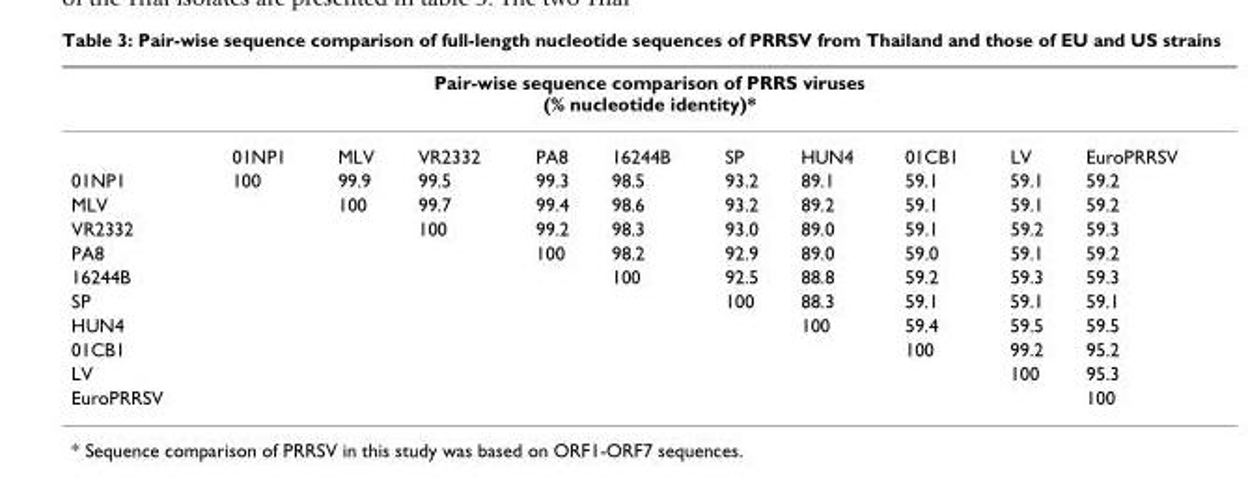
<table><thead><tr><td colspan="11">Pair-wise sequence comparison of PRRS viruses (% nucleotide identity)*</td></tr><tr><td></td><td>01NP1</td><td>MLV</td><td>VR2332</td><td>PA8</td><td>16244B</td><td>SP</td><td>HUN4</td><td>01CB1</td><td>LV</td><td>EuroPRRSV</td></tr></thead><tbody><tr><td>01NP1</td><td>100</td><td>99.9</td><td>99.5</td><td>99.3</td><td>98.5</td><td>93.2</td><td>89.1</td><td>59.1</td><td>59.1</td><td>59.2</td></tr><tr><td>MLV</td><td></td><td>100</td><td>99.7</td><td>99.4</td><td>98.6</td><td>93.2</td><td>89.2</td><td>59.1</td><td>59.1</td><td>59.2</td></tr><tr><td>VR2332</td><td></td><td></td><td>100</td><td>99.2</td><td>98.3</td><td>93.0</td><td>89.0</td><td>59.1</td><td>59.2</td><td>59.3</td></tr><tr><td>PA8</td><td></td><td></td><td></td><td>100</td><td>98.2</td><td>92.9</td><td>89.0</td><td>59.0</td><td>59.1</td><td>59.2</td></tr><tr><td>16244B</td><td></td><td></td><td></td><td></td><td>100</td><td>92.5</td><td>88.8</td><td>59.2</td><td>59.3</td><td>59.3</td></tr><tr><td>SP</td><td></td><td></td><td></td><td></td><td></td><td>100</td><td>88.3</td><td>59.1</td><td>59.1</td><td>59.1</td></tr><tr><td>HUN4</td><td></td><td></td><td></td><td></td><td></td><td></td><td>100</td><td>59.4</td><td>59.5</td><td>59.5</td></tr><tr><td>01CB1</td><td></td><td></td><td></td><td></td><td></td><td></td><td></td><td>100</td><td>99.2</td><td>95.2</td></tr><tr><td>LV</td><td></td><td></td><td></td><td></td><td></td><td></td><td></td><td></td><td>100</td><td>95.3</td></tr><tr><td>EuroPRRSV</td><td></td><td></td><td></td><td></td><td></td><td></td><td></td><td></td><td></td><td>100</td></tr></tbody></table>